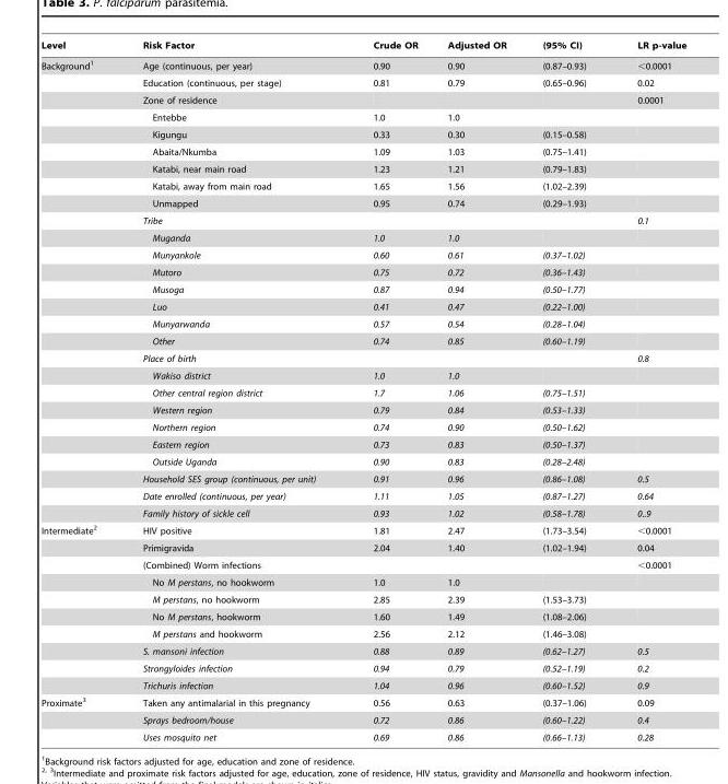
<table><thead><tr><td>Level</td><td>Risk Factor</td><td>Crude OR</td><td>Adjusted OR</td><td>(95% CI)</td><td>LR p-value</td></tr></thead><tbody><tr><td rowspan="27">Background<sup>1</sup></td><td>Age (continuous, per year)</td><td>0.90</td><td>0.90</td><td>(0.87–0.93)</td><td>&lt;0.0001</td></tr><tr><td>Education (continuous, per stage)</td><td>0.81</td><td>0.79</td><td>(0.65–0.96)</td><td>0.02</td></tr><tr><td>Zone of residence</td><td></td><td></td><td></td><td>0.0001</td></tr><tr><td>Entebbe</td><td>1.0</td><td>1.0</td><td></td><td></td></tr><tr><td>Kigungu</td><td>0.33</td><td>0.30</td><td>(0.15–0.58)</td><td></td></tr><tr><td>Abaita/Nkumba</td><td>1.09</td><td>1.03</td><td>(0.75–1.41)</td><td></td></tr><tr><td>Katabi, near main road</td><td>1.23</td><td>1.21</td><td>(0.79–1.83)</td><td></td></tr><tr><td>Katabi, away from main road</td><td>1.65</td><td>1.56</td><td>(1.02–2.39)</td><td></td></tr><tr><td>Unmapped</td><td>0.95</td><td>0.74</td><td>(0.29–1.93)</td><td></td></tr><tr><td>Tribe</td><td></td><td></td><td></td><td>0.1</td></tr><tr><td>Muganda</td><td>1.0</td><td>1.0</td><td></td><td></td></tr><tr><td>Munyankole</td><td>0.60</td><td>0.61</td><td>(0.37–1.02)</td><td></td></tr><tr><td>Mutoro</td><td>0.75</td><td>0.72</td><td>(0.36–1.43)</td><td></td></tr><tr><td>Musoga</td><td>0.87</td><td>0.94</td><td>(0.50–1.77)</td><td></td></tr><tr><td>Luo</td><td>0.41</td><td>0.47</td><td>(0.22–1.00)</td><td></td></tr><tr><td>Munyarwanda</td><td>0.57</td><td>0.54</td><td>(0.28–1.04)</td><td></td></tr><tr><td>Other</td><td>0.74</td><td>0.85</td><td>(0.60–1.19)</td><td></td></tr><tr><td>Place of birth</td><td></td><td></td><td></td><td>0.8</td></tr><tr><td>Wakiso district</td><td>1.0</td><td>1.0</td><td></td><td></td></tr><tr><td>Other central region district</td><td>1.7</td><td>1.06</td><td>(0.75–1.51)</td><td></td></tr><tr><td>Western region</td><td>0.79</td><td>0.84</td><td>(0.53–1.33)</td><td></td></tr><tr><td>Northern region</td><td>0.74</td><td>0.90</td><td>(0.50–1.62)</td><td></td></tr><tr><td>Eastern region</td><td>0.73</td><td>0.83</td><td>(0.50–1.37)</td><td></td></tr><tr><td>Outside Uganda</td><td>0.90</td><td>0.83</td><td>(0.28–2.48)</td><td></td></tr><tr><td>Household SES group (continuous, per unit)</td><td>0.91</td><td>0.96</td><td>(0.86–1.08)</td><td>0.5</td></tr><tr><td>Date enrolled (continuous, per year)</td><td>1.11</td><td>1.05</td><td>(0.87–1.27)</td><td>0.64</td></tr><tr><td>Family history of sickle cell</td><td>0.93</td><td>1.02</td><td>(0.58–1.78)</td><td>0..9</td></tr><tr><td rowspan="10">Intermediate<sup>2</sup></td><td>HIV positive</td><td>1.81</td><td>2.47</td><td>(1.73–3.54)</td><td>&lt;0.0001</td></tr><tr><td>Primigravida</td><td>2.04</td><td>1.40</td><td>(1.02–1.94)</td><td>0.04</td></tr><tr><td>(Combined) Worm infections</td><td></td><td></td><td></td><td>&lt;0.0001</td></tr><tr><td>No M perstans, no hookworm</td><td>1.0</td><td>1.0</td><td></td><td></td></tr><tr><td>M perstans, no hookworm</td><td>2.85</td><td>2.39</td><td>(1.53–3.73)</td><td></td></tr><tr><td>No M perstans, hookworm</td><td>1.60</td><td>1.49</td><td>(1.08–2.06)</td><td></td></tr><tr><td>M perstans and hookworm</td><td>2.56</td><td>2.12</td><td>(1.46–3.08)</td><td></td></tr><tr><td>S. mansoni infection</td><td>0.88</td><td>0.89</td><td>(0.62–1.27)</td><td>0.5</td></tr><tr><td>Strongyloides infection</td><td>0.94</td><td>0.79</td><td>(0.52–1.19)</td><td>0.2</td></tr><tr><td>Trichuris infection</td><td>1.04</td><td>0.96</td><td>(0.60–1.52)</td><td>0.9</td></tr><tr><td rowspan="3">Proximate<sup>3</sup></td><td>Taken any antimalarial in this pregnancy</td><td>0.56</td><td>0.63</td><td>(0.37–1.06)</td><td>0.09</td></tr><tr><td>Sprays bedroom/house</td><td>0.72</td><td>0.86</td><td>(0.60–1.22)</td><td>0.4</td></tr><tr><td>Uses mosquito net</td><td>0.69</td><td>0.86</td><td>(0.66–1.13)</td><td>0.28</td></tr></tbody></table>